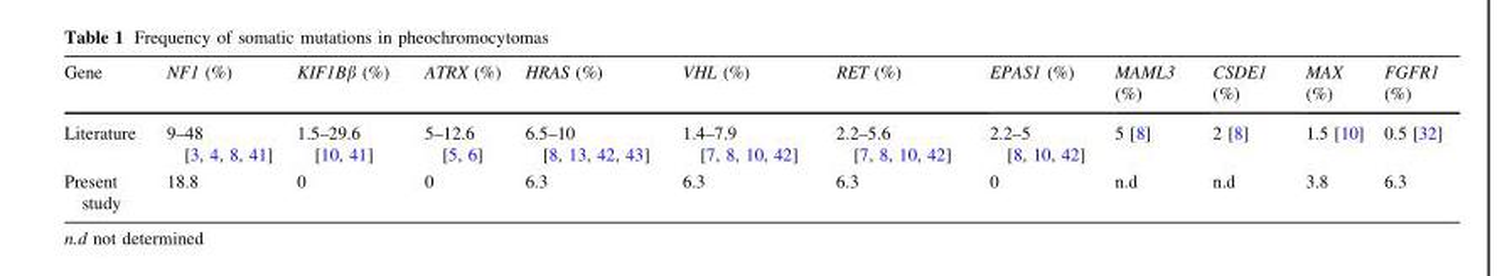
<table><thead><tr><td>Gene</td><td>NF1 (%)</td><td>KIF1Bβ (%)</td><td>ATRX (%)</td><td>HRAS (%)</td><td>VHL (%)</td><td>RET (%)</td><td>EPAS1 (%)</td><td>MAML3 (%)</td><td>CSDE1 (%)</td><td>MAX (%)</td><td>FGFR1 (%)</td></tr></thead><tbody><tr><td>Literature</td><td>9–48 [3, 4, 8, 41]</td><td>1.5–29.6 [10, 41]</td><td>5–12.6 [5, 6]</td><td>6.5–10 [8, 13, 42, 43]</td><td>1.4–7.9 [7, 8, 10, 42]</td><td>2.2–5.6 [7, 8, 10, 42]</td><td>2.2–5 [8, 10, 42]</td><td>5 [8]</td><td>2 [8]</td><td>1.5 [10]</td><td>0.5 [32]</td></tr><tr><td>Present study</td><td>18.8</td><td>0</td><td>0</td><td>6.3</td><td>6.3</td><td>6.3</td><td>0</td><td>n.d</td><td>n.d</td><td>3.8</td><td>6.3</td></tr></tbody></table>